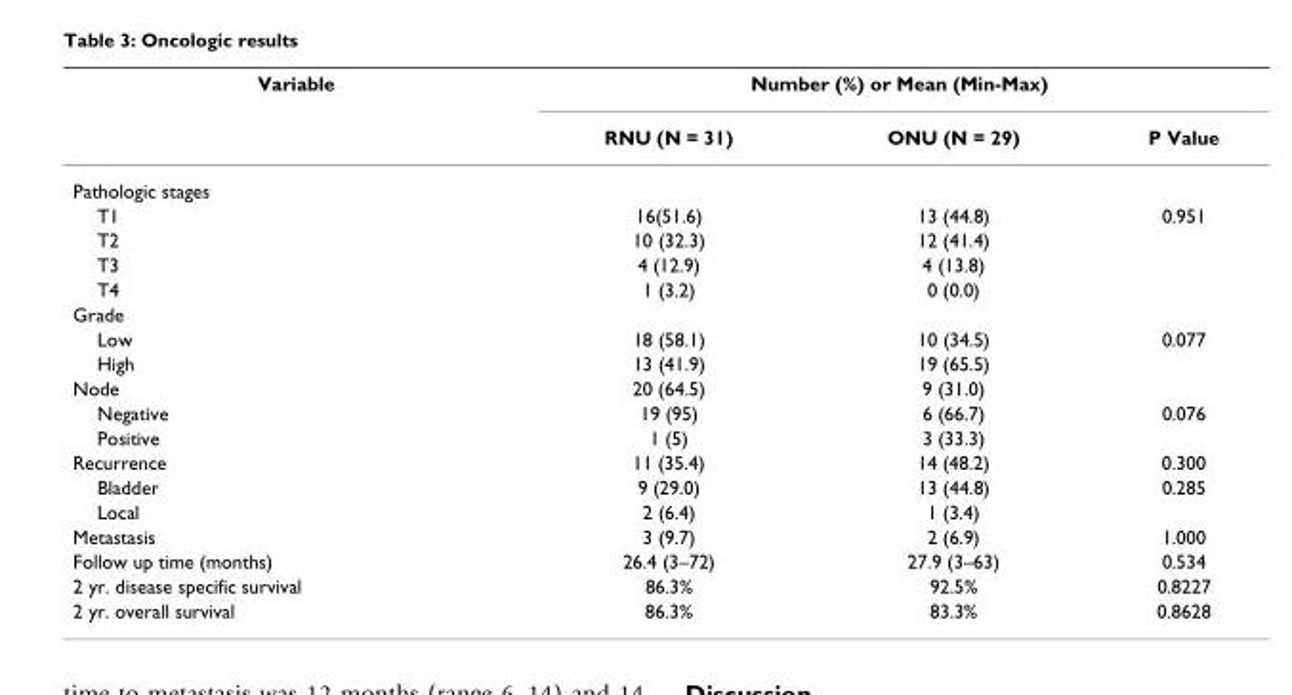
<table><thead><tr><td rowspan="2">Variable</td><td colspan="3">Number (%) or Mean (Min-Max)</td></tr><tr><td>RNU (N = 31)</td><td>ONU (N = 29)</td><td>P Value</td></tr></thead><tbody><tr><td colspan="4">Pathologic stages</td></tr><tr><td>T1</td><td>16(51.6)</td><td>13 (44.8)</td><td>0.951</td></tr><tr><td>T2</td><td>10 (32.3)</td><td>12 (41.4)</td><td></td></tr><tr><td>T3</td><td>4 (12.9)</td><td>4 (13.8)</td><td></td></tr><tr><td>T4</td><td>1 (3.2)</td><td>0 (0.0)</td><td></td></tr><tr><td colspan="4">Grade</td></tr><tr><td>Low</td><td>18 (58.1)</td><td>10 (34.5)</td><td>0.077</td></tr><tr><td>High</td><td>13 (41.9)</td><td>19 (65.5)</td><td></td></tr><tr><td>Node</td><td>20 (64.5)</td><td>9 (31.0)</td><td></td></tr><tr><td>Negative</td><td>19 (95)</td><td>6 (66.7)</td><td>0.076</td></tr><tr><td>Positive</td><td>1 (5)</td><td>3 (33.3)</td><td></td></tr><tr><td>Recurrence</td><td>11 (35.4)</td><td>14 (48.2)</td><td>0.300</td></tr><tr><td>Bladder</td><td>9 (29.0)</td><td>13 (44.8)</td><td>0.285</td></tr><tr><td>Local</td><td>2 (6.4)</td><td>1 (3.4)</td><td></td></tr><tr><td>Metastasis</td><td>3 (9.7)</td><td>2 (6.9)</td><td>1.000</td></tr><tr><td>Follow up time (months)</td><td>26.4 (3–72)</td><td>27.9 (3–63)</td><td>0.534</td></tr><tr><td>2 yr. disease specific survival</td><td>86.3%</td><td>92.5%</td><td>0.8227</td></tr><tr><td>2 yr. overall survival</td><td>86.3%</td><td>83.3%</td><td>0.8628</td></tr></tbody></table>